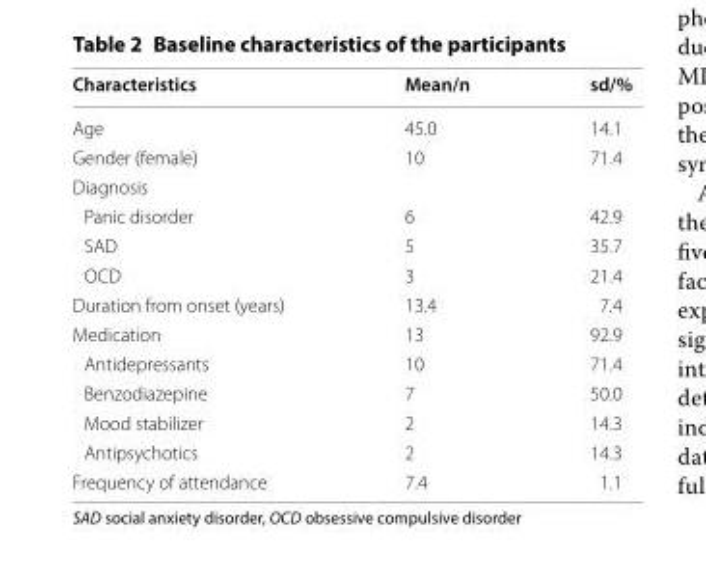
<table><thead><tr><td>Characteristics</td><td>Mean/n</td><td>sd/%</td></tr></thead><tbody><tr><td>Age</td><td>45.0</td><td>14.1</td></tr><tr><td>Gender (female)</td><td>10</td><td>71.4</td></tr><tr><td colspan="3">Diagnosis</td></tr><tr><td>Panic disorder</td><td>6</td><td>42.9</td></tr><tr><td>SAD</td><td>5</td><td>35.7</td></tr><tr><td>OCD</td><td>3</td><td>21.4</td></tr><tr><td>Duration from onset (years)</td><td>13.4</td><td>7.4</td></tr><tr><td>Medication</td><td>13</td><td>92.9</td></tr><tr><td>Antidepressants</td><td>10</td><td>71.4</td></tr><tr><td>Benzodiazepine</td><td>7</td><td>50.0</td></tr><tr><td>Mood stabilizer</td><td>2</td><td>14.3</td></tr><tr><td>Antipsychotics</td><td>2</td><td>14.3</td></tr><tr><td>Frequency of attendance</td><td>7.4</td><td>1.1</td></tr></tbody></table>